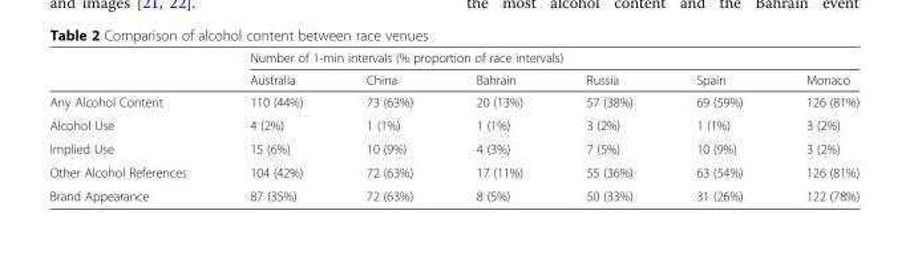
<table><thead><tr><td rowspan="2"></td><td colspan="6">Number of 1-min intervals (% proportion of race intervals)</td></tr><tr><td>Australia</td><td>China</td><td>Bahrain</td><td>Russia</td><td>Spain</td><td>Monaco</td></tr></thead><tbody><tr><td>Any Alcohol Content</td><td>110 (44%)</td><td>73 (63%)</td><td>20 (13%)</td><td>57 (38%)</td><td>69 (59%)</td><td>126 (81%)</td></tr><tr><td>Alcohol Use</td><td>4 (2%)</td><td>1 (1%)</td><td>1 (1%)</td><td>3 (2%)</td><td>1 (1%)</td><td>3 (2%)</td></tr><tr><td>Implied Use</td><td>15 (6%)</td><td>10 (9%)</td><td>4 (3%)</td><td>7 (5%)</td><td>10 (9%)</td><td>3 (2%)</td></tr><tr><td>Other Alcohol References</td><td>104 (42%)</td><td>72 (63%)</td><td>17 (11%)</td><td>55 (36%)</td><td>63 (54%)</td><td>126 (81%)</td></tr><tr><td>Brand Appearance</td><td>87 (35%)</td><td>72 (63%)</td><td>8 (5%)</td><td>50 (33%)</td><td>31 (26%)</td><td>122 (78%)</td></tr></tbody></table>